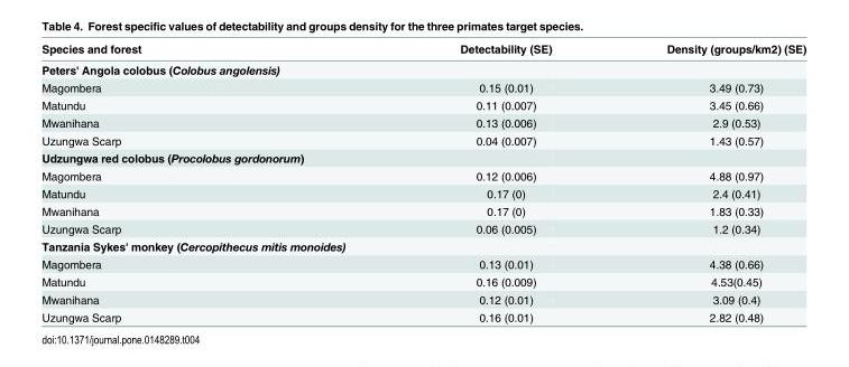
<table><thead><tr><td>Species and forest</td><td>Detectability (SE)</td><td>Density (groups/km2) (SE)</td></tr></thead><tbody><tr><td colspan="3">Peters&#x27; Angola colobus (Colobus angolensis)</td></tr><tr><td>Magombera</td><td>0.15 (0.01)</td><td>3.49 (0.73)</td></tr><tr><td>Matundu</td><td>0.11 (0.007)</td><td>3.45 (0.66)</td></tr><tr><td>Mwanihana</td><td>0.13 (0.006)</td><td>2.9 (0.53)</td></tr><tr><td>Uzungwa Scarp</td><td>0.04 (0.007)</td><td>1.43 (0.57)</td></tr><tr><td colspan="3">Udzungwa red colobus (Procolobus gordonorum)</td></tr><tr><td>Magombera</td><td>0.12 (0.006)</td><td>4.88 (0.97)</td></tr><tr><td>Matundu</td><td>0.17 (0)</td><td>2.4 (0.41)</td></tr><tr><td>Mwanihana</td><td>0.17 (0)</td><td>1.83 (0.33)</td></tr><tr><td>Uzungwa Scarp</td><td>0.06 (0.005)</td><td>1.2 (0.34)</td></tr><tr><td colspan="3">Tanzania Sykes&#x27; monkey (Cercopithecus mitis monoides)</td></tr><tr><td>Magombera</td><td>0.13 (0.01)</td><td>4.38 (0.66)</td></tr><tr><td>Matundu</td><td>0.16 (0.009)</td><td>4.53(0.45)</td></tr><tr><td>Mwanihana</td><td>0.12 (0.01)</td><td>3.09 (0.4)</td></tr><tr><td>Uzungwa Scarp</td><td>0.16 (0.01)</td><td>2.82 (0.48)</td></tr></tbody></table>